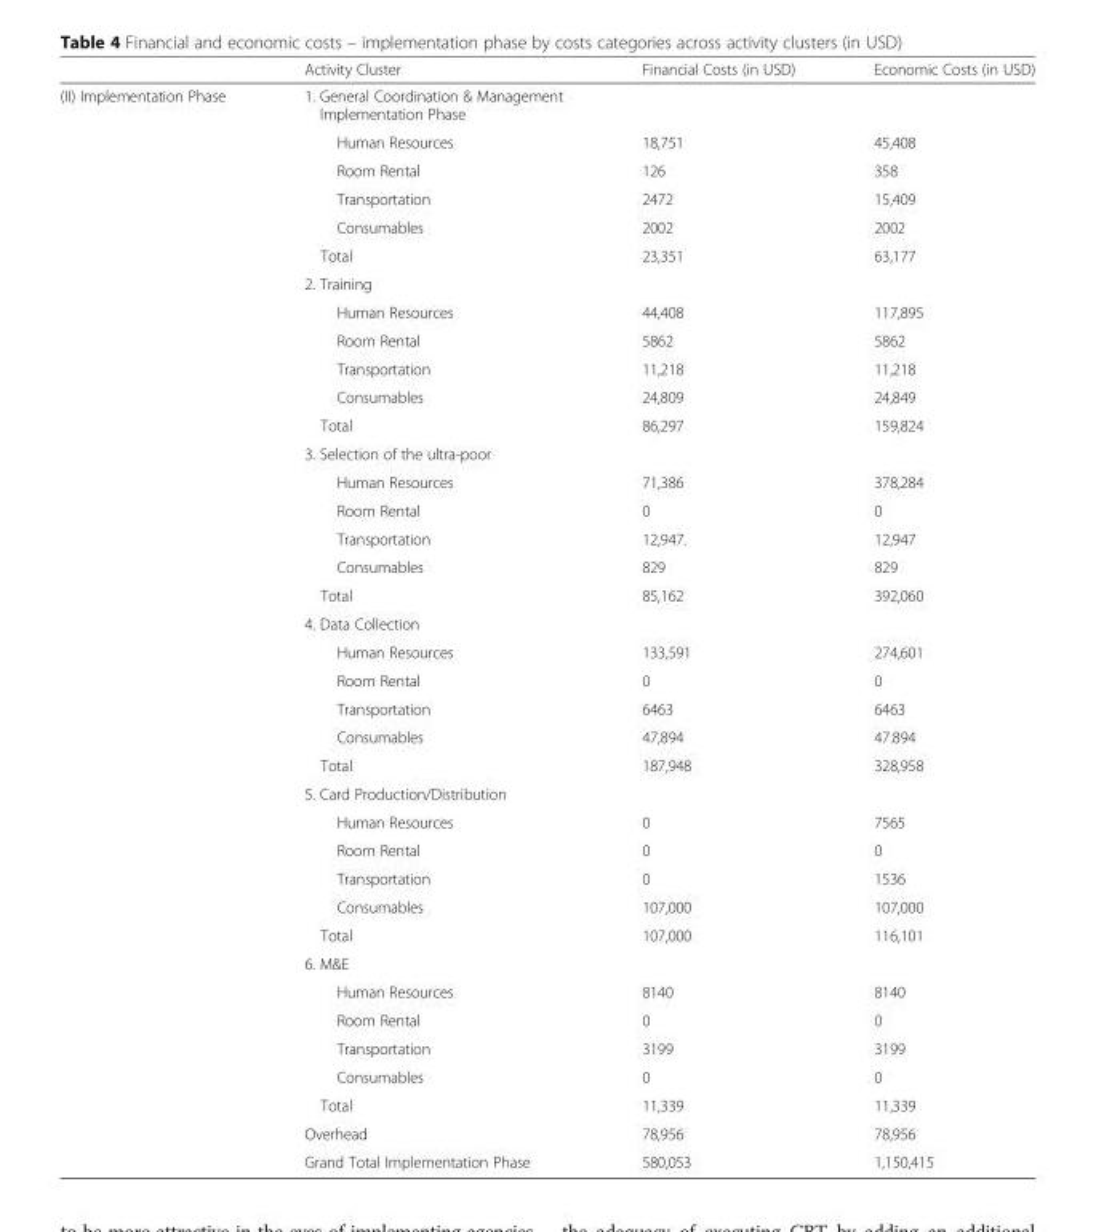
<table><thead><tr><td></td><td>Activity Cluster</td><td>Financial Costs (in USD)</td><td>Economic Costs (in USD)</td></tr></thead><tbody><tr><td rowspan="38">(II) Implementation Phase</td><td>1. General Coordination &amp; Management Implementation Phase</td><td></td><td></td></tr><tr><td>Human Resources</td><td>18,751</td><td>45,408</td></tr><tr><td>Room Rental</td><td>126</td><td>358</td></tr><tr><td>Transportation</td><td>2472</td><td>15,409</td></tr><tr><td>Consumables</td><td>2002</td><td>2002</td></tr><tr><td>Total</td><td>23,351</td><td>63,177</td></tr><tr><td colspan="3">2. Training</td></tr><tr><td>Human Resources</td><td>44,408</td><td>117,895</td></tr><tr><td>Room Rental</td><td>5862</td><td>5862</td></tr><tr><td>Transportation</td><td>11,218</td><td>11,218</td></tr><tr><td>Consumables</td><td>24,809</td><td>24,849</td></tr><tr><td>Total</td><td>86,297</td><td>159,824</td></tr><tr><td colspan="3">3. Selection of the ultra-poor</td></tr><tr><td>Human Resources</td><td>71,386</td><td>378,284</td></tr><tr><td>Room Rental</td><td>0</td><td>0</td></tr><tr><td>Transportation</td><td>12,947.</td><td>12,947</td></tr><tr><td>Consumables</td><td>829</td><td>829</td></tr><tr><td>Total</td><td>85,162</td><td>392,060</td></tr><tr><td colspan="3">4. Data Collection</td></tr><tr><td>Human Resources</td><td>133,591</td><td>274,601</td></tr><tr><td>Room Rental</td><td>0</td><td>0</td></tr><tr><td>Transportation</td><td>6463</td><td>6463</td></tr><tr><td>Consumables</td><td>47,894</td><td>47.894</td></tr><tr><td>Total</td><td>187,948</td><td>328,958</td></tr><tr><td colspan="3">5. Card Production/Distribution</td></tr><tr><td>Human Resources</td><td>0</td><td>7565</td></tr><tr><td>Room Rental</td><td>0</td><td>0</td></tr><tr><td>Transportation</td><td>0</td><td>1536</td></tr><tr><td>Consumables</td><td>107,000</td><td>107,000</td></tr><tr><td>Total</td><td>107,000</td><td>116,101</td></tr><tr><td colspan="3">6. M&amp;E</td></tr><tr><td>Human Resources</td><td>8140</td><td>8140</td></tr><tr><td>Room Rental</td><td>0</td><td>0</td></tr><tr><td>Transportation</td><td>3199</td><td>3199</td></tr><tr><td>Consumables</td><td>0</td><td>0</td></tr><tr><td>Total</td><td>11,339</td><td>11,339</td></tr><tr><td>Overhead</td><td>78,956</td><td>78,956</td></tr><tr><td>Grand Total Implementation Phase</td><td>580,053</td><td>1,150,415</td></tr></tbody></table>